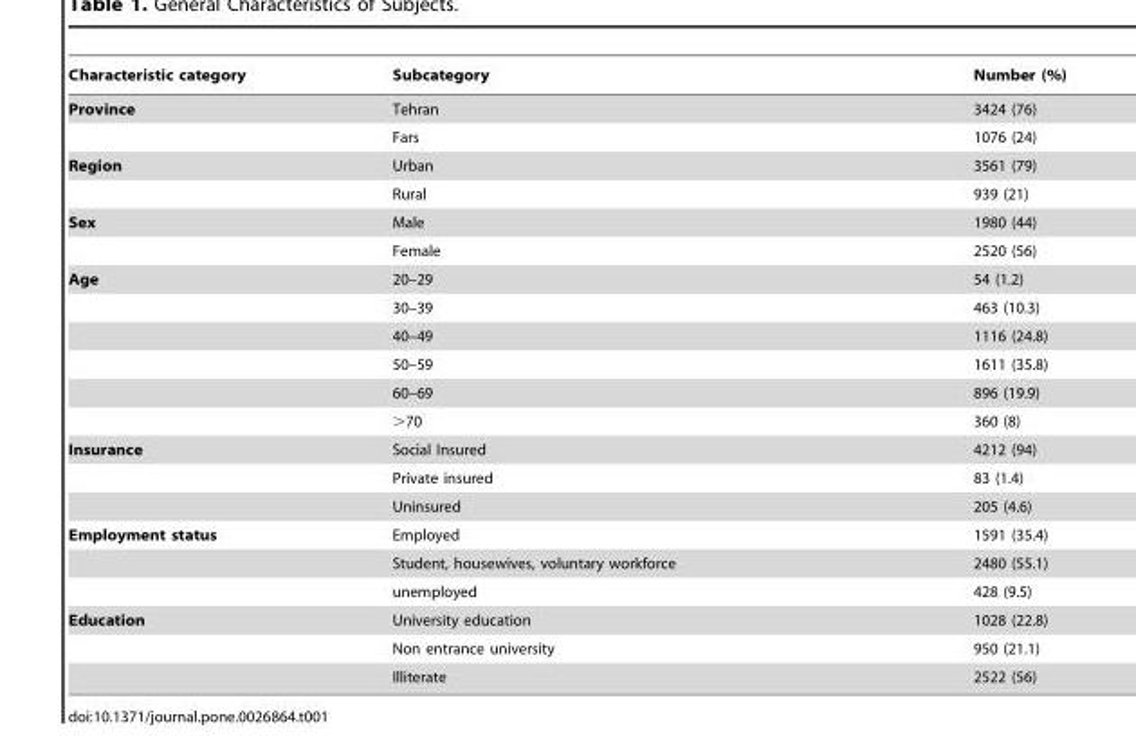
<table><thead><tr><td>Characteristic category</td><td>Subcategory</td><td>Number (%)</td></tr></thead><tbody><tr><td rowspan="2">Province</td><td>Tehran</td><td>3424 (76)</td></tr><tr><td>Fars</td><td>1076 (24)</td></tr><tr><td rowspan="2">Region</td><td>Urban</td><td>3561 (79)</td></tr><tr><td>Rural</td><td>939 (21)</td></tr><tr><td rowspan="2">Sex</td><td>Male</td><td>1980 (44)</td></tr><tr><td>Female</td><td>2520 (56)</td></tr><tr><td rowspan="6">Age</td><td>20–29</td><td>54 (1.2)</td></tr><tr><td>30–39</td><td>463 (10.3)</td></tr><tr><td>40–49</td><td>1116 (24.8)</td></tr><tr><td>50–59</td><td>1611 (35.8)</td></tr><tr><td>60–69</td><td>896 (19.9)</td></tr><tr><td>&gt;70</td><td>360 (8)</td></tr><tr><td rowspan="3">Insurance</td><td>Social Insured</td><td>4212 (94)</td></tr><tr><td>Private insured</td><td>83 (1.4)</td></tr><tr><td>Uninsured</td><td>205 (4.6)</td></tr><tr><td rowspan="3">Employment status</td><td>Employed</td><td>1591 (35.4)</td></tr><tr><td>Student, housewives, voluntary workforce</td><td>2480 (55.1)</td></tr><tr><td>unemployed</td><td>428 (9.5)</td></tr><tr><td rowspan="3">Education</td><td>University education</td><td>1028 (22.8)</td></tr><tr><td>Non entrance university</td><td>950 (21.1)</td></tr><tr><td>Illiterate</td><td>2522 (56)</td></tr></tbody></table>